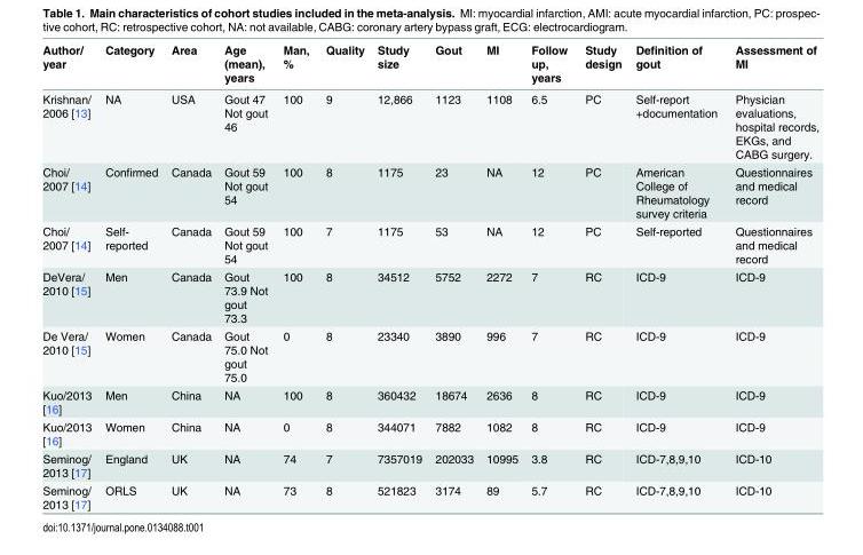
<table><thead><tr><td>Author/ year</td><td>Category</td><td>Area</td><td>Age (mean), years</td><td>Man, %</td><td>Quality</td><td>Study size</td><td>Gout</td><td>MI</td><td>Follow up, years</td><td>Study design</td><td>Definition of gout</td><td>Assessment of MI</td></tr></thead><tbody><tr><td>Krishnan/ 2006 [13]</td><td>NA</td><td>USA</td><td>Gout 47 Not gout 46</td><td>100</td><td>9</td><td>12,866</td><td>1123</td><td>1108</td><td>6.5</td><td>PC</td><td>Self-report +documentation</td><td>Physician evaluations, hospital records, EKGs, and CABG surgery.</td></tr><tr><td>Choi/ 2007 [14]</td><td>Confirmed</td><td>Canada</td><td>Gout 59 Not gout 54</td><td>100</td><td>8</td><td>1175</td><td>23</td><td>NA</td><td>12</td><td>PC</td><td>American College of Rheumatology survey criteria</td><td>Questionnaires and medical record</td></tr><tr><td>Choi/ 2007 [14]</td><td>Self- reported</td><td>Canada</td><td>Gout 59 Not gout 54</td><td>100</td><td>7</td><td>1175</td><td>53</td><td>NA</td><td>12</td><td>PC</td><td>Self-reported</td><td>Questionnaires and medical record</td></tr><tr><td>DeVera/ 2010 [15]</td><td>Men</td><td>Canada</td><td>Gout 73.9 Not gout 73.3</td><td>100</td><td>8</td><td>34512</td><td>5752</td><td>2272</td><td>7</td><td>RC</td><td>ICD-9</td><td>ICD-9</td></tr><tr><td>De Vera/ 2010 [15]</td><td>Women</td><td>Canada</td><td>Gout 75.0 Not gout 75.0</td><td>0</td><td>8</td><td>23340</td><td>3890</td><td>996</td><td>7</td><td>RC</td><td>ICD-9</td><td>ICD-9</td></tr><tr><td>Kuo/2013 [16]</td><td>Men</td><td>China</td><td>NA</td><td>100</td><td>8</td><td>360432</td><td>18674</td><td>2636</td><td>8</td><td>RC</td><td>ICD-9</td><td>ICD-9</td></tr><tr><td>Kuo/2013 [16]</td><td>Women</td><td>China</td><td>NA</td><td>0</td><td>8</td><td>344071</td><td>7882</td><td>1082</td><td>8</td><td>RC</td><td>ICD-9</td><td>ICD-9</td></tr><tr><td>Seminog/ 2013 [17]</td><td>England</td><td>UK</td><td>NA</td><td>74</td><td>7</td><td>7357019</td><td>202033</td><td>10995</td><td>3.8</td><td>RC</td><td>ICD-7,8,9,10</td><td>ICD-10</td></tr><tr><td>Seminog/ 2013 [17]</td><td>ORLS</td><td>UK</td><td>NA</td><td>73</td><td>8</td><td>521823</td><td>3174</td><td>89</td><td>5.7</td><td>RC</td><td>ICD-7,8,9,10</td><td>ICD-10</td></tr></tbody></table>